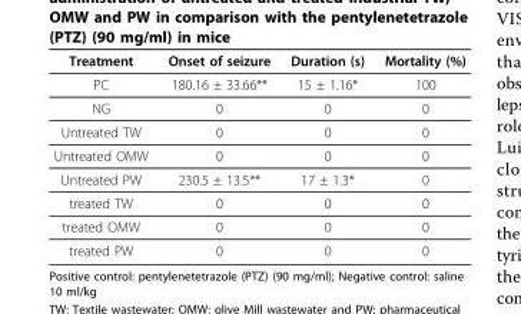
<table><thead><tr><td>Treatment</td><td>Onset of seizure</td><td>Duration (s)</td><td>Mortality (%)</td></tr></thead><tbody><tr><td>PC</td><td>180.16 ± 33.66**</td><td>15 ± 1.16*</td><td>100</td></tr><tr><td>NG</td><td>0</td><td>0</td><td>0</td></tr><tr><td>Untreated TW</td><td>0</td><td>0</td><td>0</td></tr><tr><td>Untreated OMW</td><td>0</td><td>0</td><td>0</td></tr><tr><td>Untreated PW</td><td>230.5 ± 13.5**</td><td>17 ± 1.3*</td><td>0</td></tr><tr><td>treated TW</td><td>0</td><td>0</td><td>0</td></tr><tr><td>treated OMW</td><td>0</td><td>0</td><td>0</td></tr><tr><td>treated PW</td><td>0</td><td>0</td><td>0</td></tr></tbody></table>